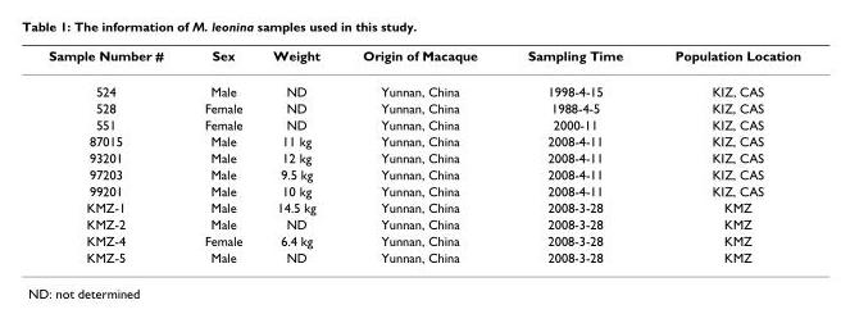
<table><thead><tr><td>Sample Number #</td><td>Sex</td><td>Weight</td><td>Origin of Macaque</td><td>Sampling Time</td><td>Population Location</td></tr></thead><tbody><tr><td>524</td><td>Male</td><td>ND</td><td>Yunnan, China</td><td>1998-4-15</td><td>KIZ, CAS</td></tr><tr><td>528</td><td>Female</td><td>ND</td><td>Yunnan, China</td><td>1988-4-5</td><td>KIZ, CAS</td></tr><tr><td>551</td><td>Female</td><td>ND</td><td>Yunnan, China</td><td>2000-11</td><td>KIZ, CAS</td></tr><tr><td>87015</td><td>Male</td><td>11 kg</td><td>Yunnan, China</td><td>2008-4-11</td><td>KIZ, CAS</td></tr><tr><td>93201</td><td>Male</td><td>12 kg</td><td>Yunnan, China</td><td>2008-4-11</td><td>KIZ, CAS</td></tr><tr><td>97203</td><td>Male</td><td>9.5 kg</td><td>Yunnan, China</td><td>2008-4-11</td><td>KIZ, CAS</td></tr><tr><td>99201</td><td>Male</td><td>10 kg</td><td>Yunnan, China</td><td>2008-4-11</td><td>KIZ, CAS</td></tr><tr><td>KMZ-1</td><td>Male</td><td>14.5 kg</td><td>Yunnan, China</td><td>2008-3-28</td><td>KMZ</td></tr><tr><td>KMZ-2</td><td>Male</td><td>ND</td><td>Yunnan, China</td><td>2008-3-28</td><td>KMZ</td></tr><tr><td>KMZ-4</td><td>Female</td><td>6.4 kg</td><td>Yunnan, China</td><td>2008-3-28</td><td>KMZ</td></tr><tr><td>KMZ-5</td><td>Male</td><td>ND</td><td>Yunnan, China</td><td>2008-3-28</td><td>KMZ</td></tr></tbody></table>